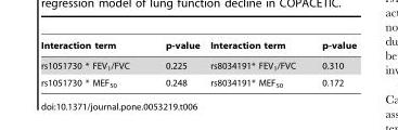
<table><thead><tr><td>Interaction term</td><td>p-value</td><td>Interaction term</td><td>p-value</td></tr></thead><tbody><tr><td>rs1051730 * FEV<sub>1</sub>/FVC</td><td>0.225</td><td>rs8034191* FEV<sub>1</sub>/FVC</td><td>0.310</td></tr><tr><td>rs1051730 * MEF<sub>50</sub></td><td>0.248</td><td>rs8034191* MEF<sub>50</sub></td><td>0.172</td></tr></tbody></table>